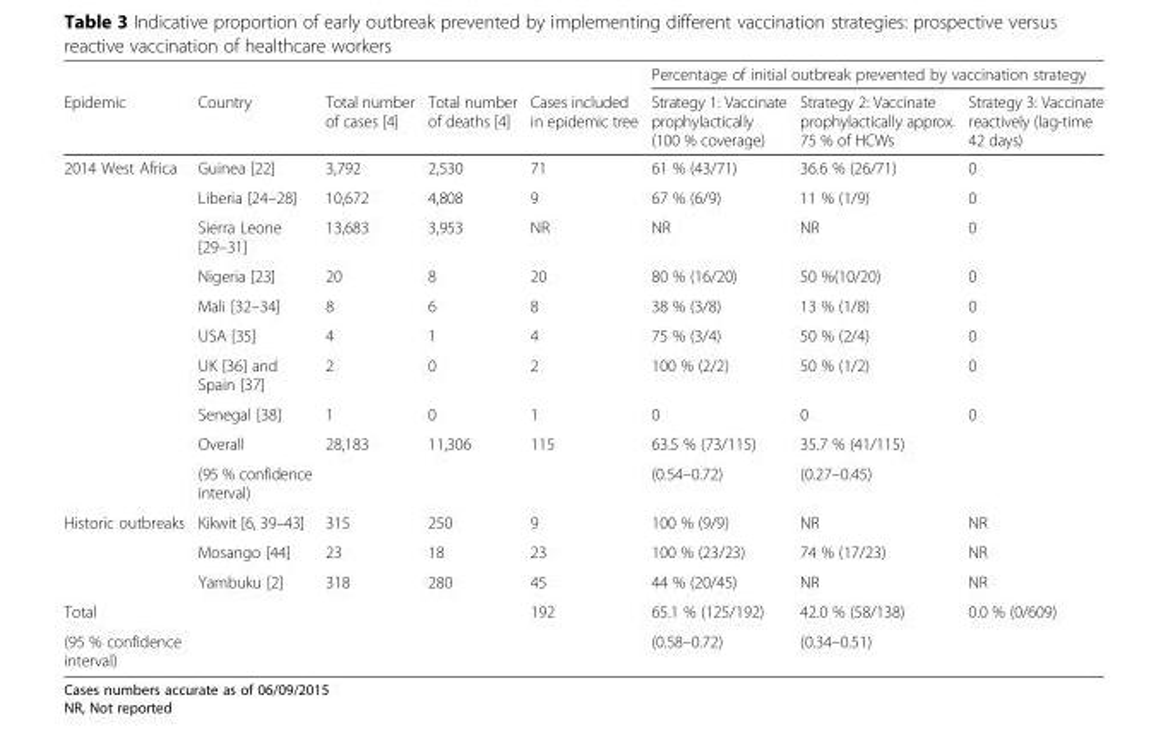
<table><thead><tr><td rowspan="2">Epidemic</td><td rowspan="2">Country</td><td rowspan="2">Total number of cases [4]</td><td rowspan="2">Total number of deaths [4]</td><td rowspan="2">Cases included in epidemic tree</td><td colspan="3">Percentage of initial outbreak prevented by vaccination strategy</td></tr><tr><td>Strategy 1: Vaccinate prophylactically (100 % coverage)</td><td>Strategy 2: Vaccinate prophylactically approx. 75 % of HCWs</td><td>Strategy 3: Vaccinate reactively (lag-time 42 days)</td></tr></thead><tbody><tr><td rowspan="10">2014 West Africa</td><td>Guinea [22]</td><td>3,792</td><td>2,530</td><td>71</td><td>61 % (43/71)</td><td>36.6 % (26/71)</td><td>0</td></tr><tr><td>Liberia [24–28]</td><td>10,672</td><td>4,808</td><td>9</td><td>67 % (6/9)</td><td>11 % (1/9)</td><td>0</td></tr><tr><td>Sierra Leone [29–31]</td><td>13,683</td><td>3,953</td><td>NR</td><td>NR</td><td>NR</td><td>0</td></tr><tr><td>Nigeria [23]</td><td>20</td><td>8</td><td>20</td><td>80 % (16/20)</td><td>50 %(10/20)</td><td>0</td></tr><tr><td>Mali [32–34]</td><td>8</td><td>6</td><td>8</td><td>38 % (3/8)</td><td>13 % (1/8)</td><td>0</td></tr><tr><td>USA [35]</td><td>4</td><td>1</td><td>4</td><td>75 % (3/4)</td><td>50 % (2/4)</td><td>0</td></tr><tr><td>UK [36] and Spain [37]</td><td>2</td><td>0</td><td>2</td><td>100 % (2/2)</td><td>50 % (1/2)</td><td>0</td></tr><tr><td>Senegal [38]</td><td>1</td><td>0</td><td>1</td><td>0</td><td>0</td><td>0</td></tr><tr><td>Overall</td><td>28,183</td><td>11,306</td><td>115</td><td>63.5 % (73/115)</td><td>35.7 % (41/115)</td><td></td></tr><tr><td>(95 % confidence interval)</td><td></td><td></td><td></td><td>(0.54–0.72)</td><td>(0.27–0.45)</td><td></td></tr><tr><td rowspan="3">Historic outbreaks</td><td>Kikwit [6, 39–43]</td><td>315</td><td>250</td><td>9</td><td>100 % (9/9)</td><td>NR</td><td>NR</td></tr><tr><td>Mosango [44]</td><td>23</td><td>18</td><td>23</td><td>100 % (23/23)</td><td>74 % (17/23)</td><td>NR</td></tr><tr><td>Yambuku [2]</td><td>318</td><td>280</td><td>45</td><td>44 % (20/45)</td><td>NR</td><td>NR</td></tr><tr><td>Total</td><td></td><td></td><td></td><td>192</td><td>65.1 % (125/192)</td><td>42.0 % (58/138)</td><td>0.0 % (0/609)</td></tr><tr><td>(95 % confidence interval)</td><td></td><td></td><td></td><td></td><td>(0.58–0.72)</td><td>(0.34–0.51)</td><td></td></tr></tbody></table>